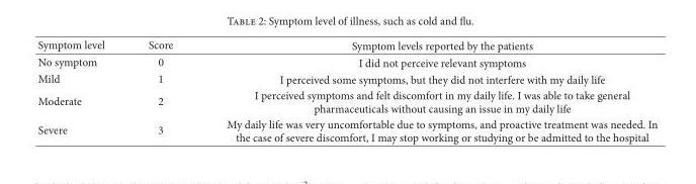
<table><thead><tr><td>Symptom level</td><td>Score</td><td>Symptom levels reported by the patients</td></tr></thead><tbody><tr><td>No symptom</td><td>0</td><td>I did not perceive relevant symptoms</td></tr><tr><td>Mild</td><td>1</td><td>I perceived some symptoms, but they did not interfere with my daily life</td></tr><tr><td>Moderate</td><td>2</td><td>I perceived symptoms and felt discomfort in my daily life. I was able to take general pharmaceuticals without causing an issue in my daily life</td></tr><tr><td>Severe</td><td>3</td><td>My daily life was very uncomfortable due to symptoms, and proactive treatment was needed. In the case of severe discomfort, I may stop working or studying or be admitted to the hospital</td></tr></tbody></table>